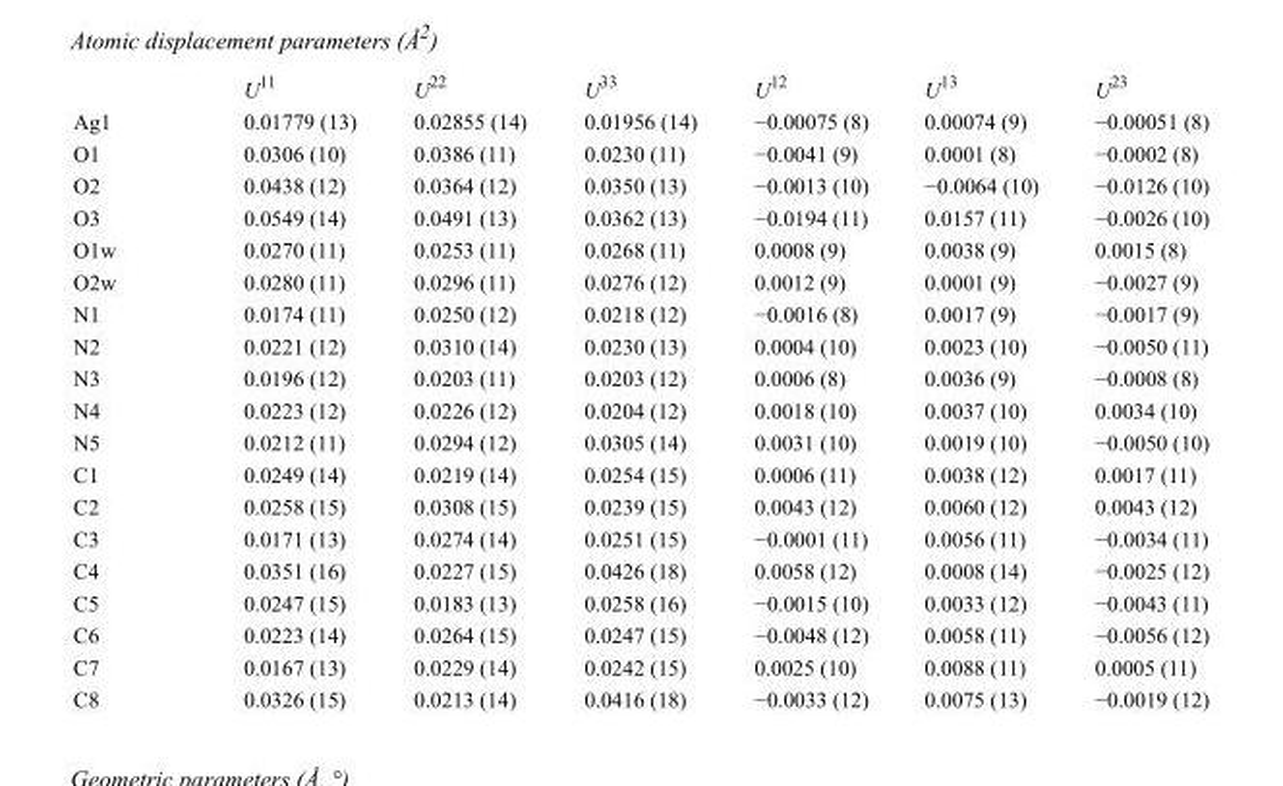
<table><thead><tr><td></td><td>U<sup>11</sup></td><td>U<sup>22</sup></td><td>U<sup>33</sup></td><td>U<sup>12</sup></td><td>U<sup>13</sup></td><td>U<sup>23</sup></td></tr></thead><tbody><tr><td>Ag1</td><td>0.01779 (13)</td><td>0.02855 (14)</td><td>0.01956 (14)</td><td>−0.00075 (8)</td><td>0.00074 (9)</td><td>−0.00051 (8)</td></tr><tr><td>O1</td><td>0.0306 (10)</td><td>0.0386 (11)</td><td>0.0230 (11)</td><td>−0.0041 (9)</td><td>0.0001 (8)</td><td>−0.0002 (8)</td></tr><tr><td>O2</td><td>0.0438 (12)</td><td>0.0364 (12)</td><td>0.0350 (13)</td><td>−0.0013 (10)</td><td>−0.0064 (10)</td><td>−0.0126 (10)</td></tr><tr><td>O3</td><td>0.0549 (14)</td><td>0.0491 (13)</td><td>0.0362 (13)</td><td>−0.0194 (11)</td><td>0.0157 (11)</td><td>−0.0026 (10)</td></tr><tr><td>O1w</td><td>0.0270 (11)</td><td>0.0253 (11)</td><td>0.0268 (11)</td><td>0.0008 (9)</td><td>0.0038 (9)</td><td>0.0015 (8)</td></tr><tr><td>O2w</td><td>0.0280 (11)</td><td>0.0296 (11)</td><td>0.0276 (12)</td><td>0.0012 (9)</td><td>0.0001 (9)</td><td>−0.0027 (9)</td></tr><tr><td>N1</td><td>0.0174 (11)</td><td>0.0250 (12)</td><td>0.0218 (12)</td><td>−0.0016 (8)</td><td>0.0017 (9)</td><td>−0.0017 (9)</td></tr><tr><td>N2</td><td>0.0221 (12)</td><td>0.0310 (14)</td><td>0.0230 (13)</td><td>0.0004 (10)</td><td>0.0023 (10)</td><td>−0.0050 (11)</td></tr><tr><td>N3</td><td>0.0196 (12)</td><td>0.0203 (11)</td><td>0.0203 (12)</td><td>0.0006 (8)</td><td>0.0036 (9)</td><td>−0.0008 (8)</td></tr><tr><td>N4</td><td>0.0223 (12)</td><td>0.0226 (12)</td><td>0.0204 (12)</td><td>0.0018 (10)</td><td>0.0037 (10)</td><td>0.0034 (10)</td></tr><tr><td>N5</td><td>0.0212 (11)</td><td>0.0294 (12)</td><td>0.0305 (14)</td><td>0.0031 (10)</td><td>0.0019 (10)</td><td>−0.0050 (10)</td></tr><tr><td>C1</td><td>0.0249 (14)</td><td>0.0219 (14)</td><td>0.0254 (15)</td><td>0.0006 (11)</td><td>0.0038 (12)</td><td>0.0017 (11)</td></tr><tr><td>C2</td><td>0.0258 (15)</td><td>0.0308 (15)</td><td>0.0239 (15)</td><td>0.0043 (12)</td><td>0.0060 (12)</td><td>0.0043 (12)</td></tr><tr><td>C3</td><td>0.0171 (13)</td><td>0.0274 (14)</td><td>0.0251 (15)</td><td>−0.0001 (11)</td><td>0.0056 (11)</td><td>−0.0034 (11)</td></tr><tr><td>C4</td><td>0.0351 (16)</td><td>0.0227 (15)</td><td>0.0426 (18)</td><td>0.0058 (12)</td><td>0.0008 (14)</td><td>−0.0025 (12)</td></tr><tr><td>C5</td><td>0.0247 (15)</td><td>0.0183 (13)</td><td>0.0258 (16)</td><td>−0.0015 (10)</td><td>0.0033 (12)</td><td>−0.0043 (11)</td></tr><tr><td>C6</td><td>0.0223 (14)</td><td>0.0264 (15)</td><td>0.0247 (15)</td><td>−0.0048 (12)</td><td>0.0058 (11)</td><td>−0.0056 (12)</td></tr><tr><td>C7</td><td>0.0167 (13)</td><td>0.0229 (14)</td><td>0.0242 (15)</td><td>0.0025 (10)</td><td>0.0088 (11)</td><td>0.0005 (11)</td></tr><tr><td>C8</td><td>0.0326 (15)</td><td>0.0213 (14)</td><td>0.0416 (18)</td><td>−0.0033 (12)</td><td>0.0075 (13)</td><td>−0.0019 (12)</td></tr></tbody></table>